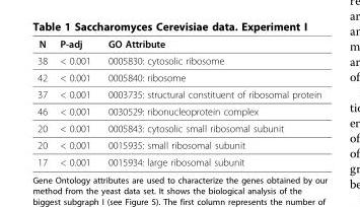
<table><thead><tr><td>N</td><td>P-adj</td><td>GO Attribute</td></tr></thead><tbody><tr><td>38</td><td>&lt; 0.001</td><td>0005830: cytosolic ribosome</td></tr><tr><td>42</td><td>&lt; 0.001</td><td>0005840: ribosome</td></tr><tr><td>37</td><td>&lt; 0.001</td><td>0003735: structural constituent of ribosomal protein</td></tr><tr><td>46</td><td>&lt; 0.001</td><td>0030529: ribonucleoprotein complex</td></tr><tr><td>20</td><td>&lt; 0.001</td><td>0005843: cytosolic small ribosomal subunit</td></tr><tr><td>20</td><td>&lt; 0.001</td><td>0015935: small ribosomal subunit</td></tr><tr><td>17</td><td>&lt; 0.001</td><td>0015934: large ribosomal subunit</td></tr></tbody></table>